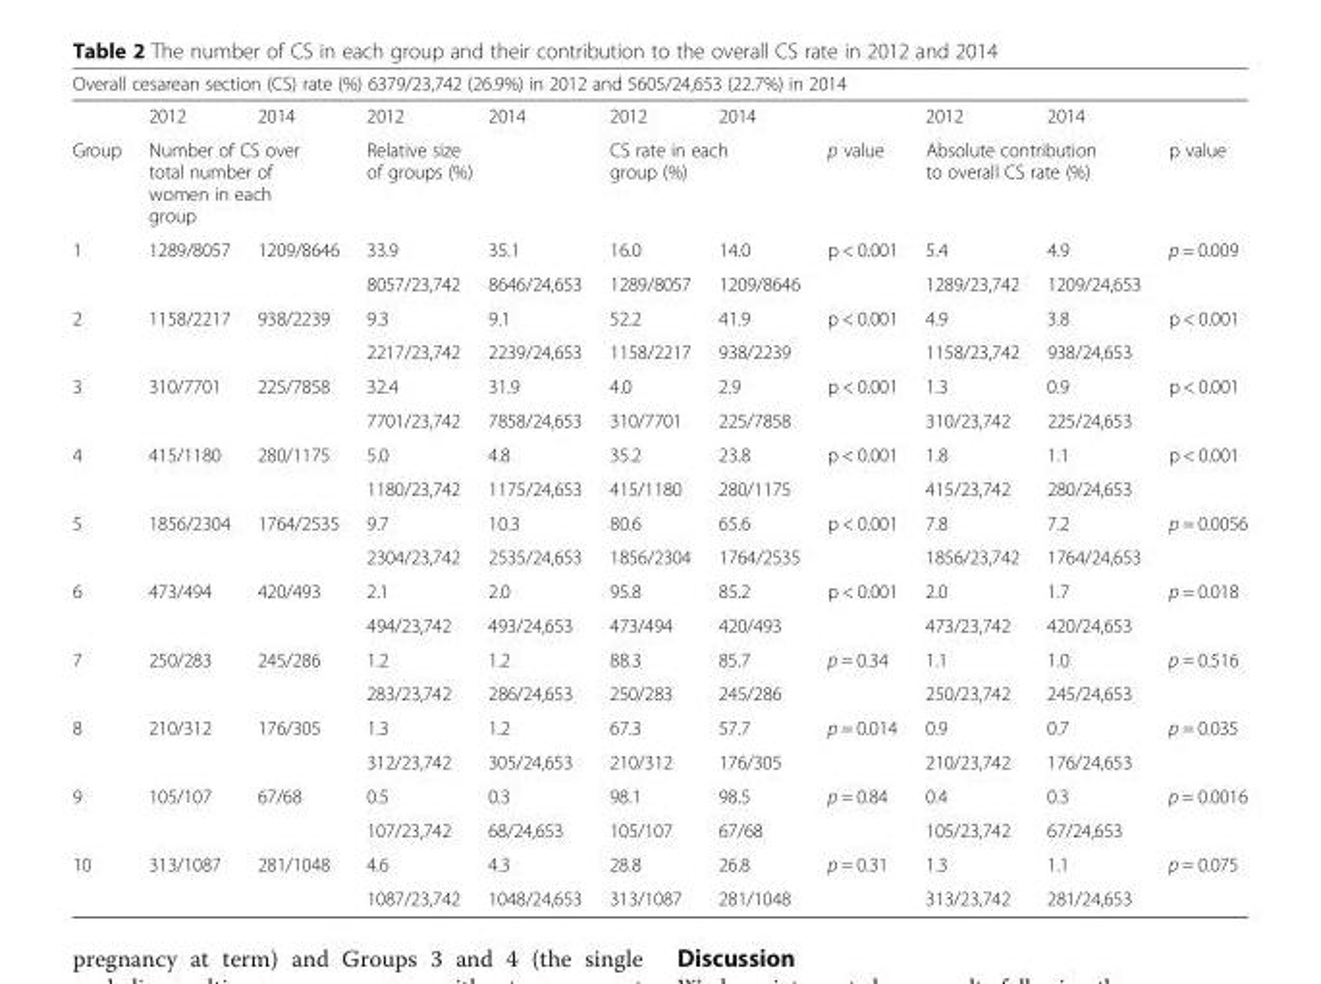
<table><thead><tr><td colspan="11">Overall cesarean section (CS) rate (%) 6379/23,742 (26.9%) in 2012 and 5605/24,653 (22.7%) in 2014</td></tr><tr><td></td><td>2012</td><td>2014</td><td>2012</td><td>2014</td><td>2012</td><td>2014</td><td></td><td>2012</td><td>2014</td><td></td></tr></thead><tbody><tr><td>Group</td><td colspan="2">Number of CS over total number of women in each group</td><td colspan="2">Relative size of groups (%)</td><td colspan="2">CS rate in each group (%)</td><td>p value</td><td colspan="2">Absolute contribution to overall CS rate (%)</td><td>p value</td></tr><tr><td rowspan="2">1</td><td rowspan="2">1289/8057</td><td rowspan="2">1209/8646</td><td>33.9</td><td>35.1</td><td>16.0</td><td>14.0</td><td rowspan="2">p &lt; 0.001</td><td>5.4</td><td>4.9</td><td rowspan="2">p = 0.009</td></tr><tr><td>8057/23,742</td><td>8646/24,653</td><td>1289/8057</td><td>1209/8646</td><td>1289/23,742</td><td>1209/24,653</td></tr><tr><td rowspan="2">2</td><td rowspan="2">1158/2217</td><td rowspan="2">938/2239</td><td>9.3</td><td>9.1</td><td>52.2</td><td>41.9</td><td rowspan="2">p &lt; 0.001</td><td>4.9</td><td>3.8</td><td rowspan="2">p &lt; 0.001</td></tr><tr><td>2217/23,742</td><td>2239/24,653</td><td>1158/2217</td><td>938/2239</td><td>1158/23,742</td><td>938/24,653</td></tr><tr><td rowspan="2">3</td><td rowspan="2">310/7701</td><td rowspan="2">225/7858</td><td>32.4</td><td>31.9</td><td>4.0</td><td>2.9</td><td rowspan="2">p &lt; 0.001</td><td>1.3</td><td>0.9</td><td rowspan="2">p &lt; 0.001</td></tr><tr><td>7701/23,742</td><td>7858/24,653</td><td>310/7701</td><td>225/7858</td><td>310/23,742</td><td>225/24,653</td></tr><tr><td rowspan="2">4</td><td rowspan="2">415/1180</td><td rowspan="2">280/1175</td><td>5.0</td><td>4.8</td><td>35.2</td><td>23.8</td><td rowspan="2">p &lt; 0.001</td><td>1.8</td><td>1.1</td><td rowspan="2">p &lt; 0.001</td></tr><tr><td>1180/23,742</td><td>1175/24,653</td><td>415/1180</td><td>280/1175</td><td>415/23,742</td><td>280/24,653</td></tr><tr><td rowspan="2">5</td><td rowspan="2">1856/2304</td><td rowspan="2">1764/2535</td><td>9.7</td><td>10.3</td><td>80.6</td><td>65.6</td><td rowspan="2">p &lt; 0.001</td><td>7.8</td><td>7.2</td><td rowspan="2">p = 0.0056</td></tr><tr><td>2304/23,742</td><td>2535/24,653</td><td>1856/2304</td><td>1764/2535</td><td>1856/23,742</td><td>1764/24,653</td></tr><tr><td rowspan="2">6</td><td rowspan="2">473/494</td><td rowspan="2">420/493</td><td>2.1</td><td>2.0</td><td>95.8</td><td>85.2</td><td rowspan="2">p &lt; 0.001</td><td>2.0</td><td>1.7</td><td rowspan="2">p = 0.018</td></tr><tr><td>494/23,742</td><td>493/24,653</td><td>473/494</td><td>420/493</td><td>473/23,742</td><td>420/24,653</td></tr><tr><td rowspan="2">7</td><td rowspan="2">250/283</td><td rowspan="2">245/286</td><td>1.2</td><td>1.2</td><td>88.3</td><td>85.7</td><td rowspan="2">p = 0.34</td><td>1.1</td><td>1.0</td><td rowspan="2">p = 0.516</td></tr><tr><td>283/23,742</td><td>286/24,653</td><td>250/283</td><td>245/286</td><td>250/23,742</td><td>245/24,653</td></tr><tr><td rowspan="2">8</td><td rowspan="2">210/312</td><td rowspan="2">176/305</td><td>1.3</td><td>1.2</td><td>67.3</td><td>57.7</td><td rowspan="2">p = 0.014</td><td>0.9</td><td>0.7</td><td rowspan="2">p = 0.035</td></tr><tr><td>312/23,742</td><td>305/24,653</td><td>210/312</td><td>176/305</td><td>210/23,742</td><td>176/24,653</td></tr><tr><td rowspan="2">9</td><td rowspan="2">105/107</td><td rowspan="2">67/68</td><td>0.5</td><td>0.3</td><td>98.1</td><td>98.5</td><td rowspan="2">p = 0.84</td><td>0.4</td><td>0.3</td><td rowspan="2">p = 0.0016</td></tr><tr><td>107/23,742</td><td>68/24,653</td><td>105/107</td><td>67/68</td><td>105/23,742</td><td>67/24,653</td></tr><tr><td rowspan="2">10</td><td rowspan="2">313/1087</td><td rowspan="2">281/1048</td><td>4.6</td><td>4.3</td><td>28.8</td><td>26.8</td><td rowspan="2">p = 0.31</td><td>1.3</td><td>1.1</td><td rowspan="2">p = 0.075</td></tr><tr><td>1087/23,742</td><td>1048/24,653</td><td>313/1087</td><td>281/1048</td><td>313/23,742</td><td>281/24,653</td></tr></tbody></table>